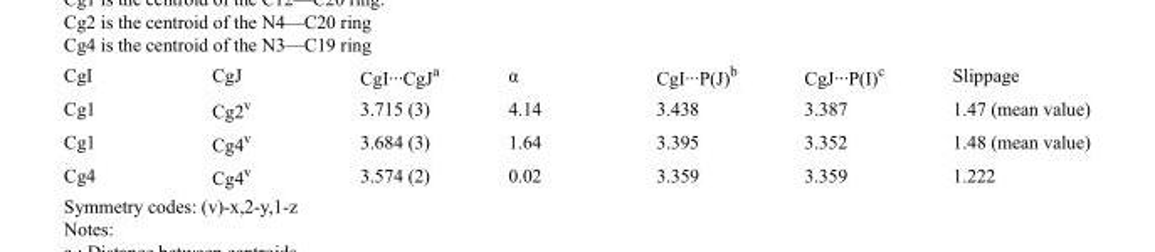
<table><tbody><tr><td>CgI</td><td>CgJ</td><td>CgI···CgJ<sup>a</sup></td><td>α</td><td>CgI···P(J)<sup>b</sup></td><td>CgJ···P(I)<sup>c</sup></td><td>Slippage</td></tr><tr><td>Cg1</td><td>Cg2<sup>v</sup></td><td>3.715 (3)</td><td>4.14</td><td>3.438</td><td>3.387</td><td>1.47 (mean value)</td></tr><tr><td>Cg1</td><td>Cg4<sup>v</sup></td><td>3.684 (3)</td><td>1.64</td><td>3.395</td><td>3.352</td><td>1.48 (mean value)</td></tr><tr><td>Cg4</td><td>Cg4<sup>v</sup></td><td>3.574 (2)</td><td>0.02</td><td>3.359</td><td>3.359</td><td>1.222</td></tr></tbody></table>